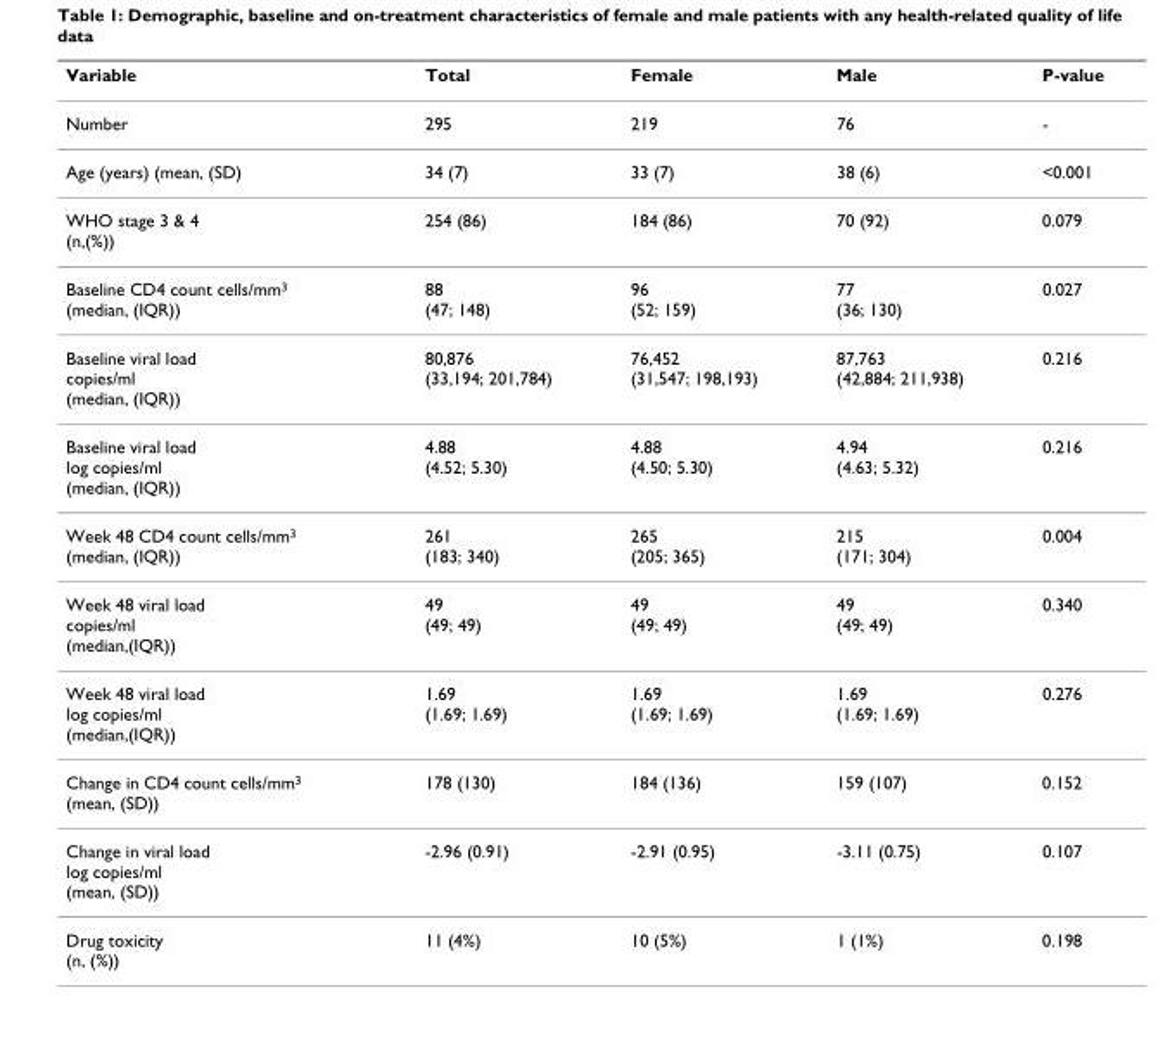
<table><thead><tr><td>Variable</td><td>Total</td><td>Female</td><td>Male</td><td>P-value</td></tr></thead><tbody><tr><td>Number</td><td>295</td><td>219</td><td>76</td><td>-</td></tr><tr><td>Age (years) (mean, (SD)</td><td>34 (7)</td><td>33 (7)</td><td>38 (6)</td><td>&lt;0.001</td></tr><tr><td>WHO stage 3 &amp; 4 (n,(%))</td><td>254 (86)</td><td>184 (86)</td><td>70 (92)</td><td>0.079</td></tr><tr><td>Baseline CD4 count cells/mm<sup>3</sup> (median, (IQR))</td><td>88 (47; 148)</td><td>96 (52; 159)</td><td>77 (36; 130)</td><td>0.027</td></tr><tr><td>Baseline viral load copies/ml (median, (IQR))</td><td>80,876 (33,194; 201,784)</td><td>76,452 (31,547; 198,193)</td><td>87,763 (42,884; 211,938)</td><td>0.216</td></tr><tr><td>Baseline viral load log copies/ml (median, (IQR))</td><td>4.88 (4.52; 5.30)</td><td>4.88 (4.50; 5.30)</td><td>4.94 (4.63; 5.32)</td><td>0.216</td></tr><tr><td>Week 48 CD4 count cells/mm<sup>3</sup> (median, (IQR))</td><td>261 (183; 340)</td><td>265 (205; 365)</td><td>215 (171; 304)</td><td>0.004</td></tr><tr><td>Week 48 viral load copies/ml (median,(IQR))</td><td>49 (49; 49)</td><td>49 (49; 49)</td><td>49 (49; 49)</td><td>0.340</td></tr><tr><td>Week 48 viral load log copies/ml (median,(IQR))</td><td>1.69 (1.69; 1.69)</td><td>1.69 (1.69; 1.69)</td><td>1.69 (1.69; 1.69)</td><td>0.276</td></tr><tr><td>Change in CD4 count cells/mm<sup>3</sup> (mean, (SD))</td><td>178 (130)</td><td>184 (136)</td><td>159 (107)</td><td>0.152</td></tr><tr><td>Change in viral load log copies/ml (mean, (SD))</td><td>-2.96 (0.91)</td><td>-2.91 (0.95)</td><td>-3.11 (0.75)</td><td>0.107</td></tr><tr><td>Drug toxicity (n, (%))</td><td>11 (4%)</td><td>10 (5%)</td><td>1 (1%)</td><td>0.198</td></tr></tbody></table>